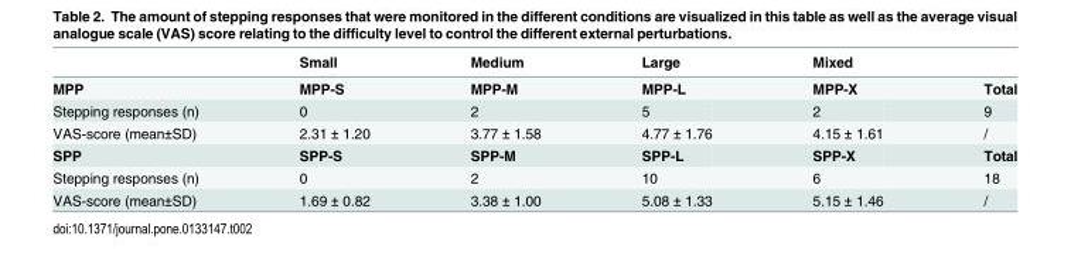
<table><thead><tr><td></td><td>Small</td><td>Medium</td><td>Large</td><td>Mixed</td><td></td></tr></thead><tbody><tr><td>MPP</td><td>MPP-S</td><td>MPP-M</td><td>MPP-L</td><td>MPP-X</td><td>Total</td></tr><tr><td>Stepping responses (n)</td><td>0</td><td>2</td><td>5</td><td>2</td><td>9</td></tr><tr><td>VAS-score (mean±SD)</td><td>2.31 ± 1.20</td><td>3.77 ± 1.58</td><td>4.77 ± 1.76</td><td>4.15 ± 1.61</td><td>/</td></tr><tr><td>SPP</td><td>SPP-S</td><td>SPP-M</td><td>SPP-L</td><td>SPP-X</td><td>Total</td></tr><tr><td>Stepping responses (n)</td><td>0</td><td>2</td><td>10</td><td>6</td><td>18</td></tr><tr><td>VAS-score (mean±SD)</td><td>1.69 ± 0.82</td><td>3.38 ± 1.00</td><td>5.08 ± 1.33</td><td>5.15 ± 1.46</td><td>/</td></tr></tbody></table>